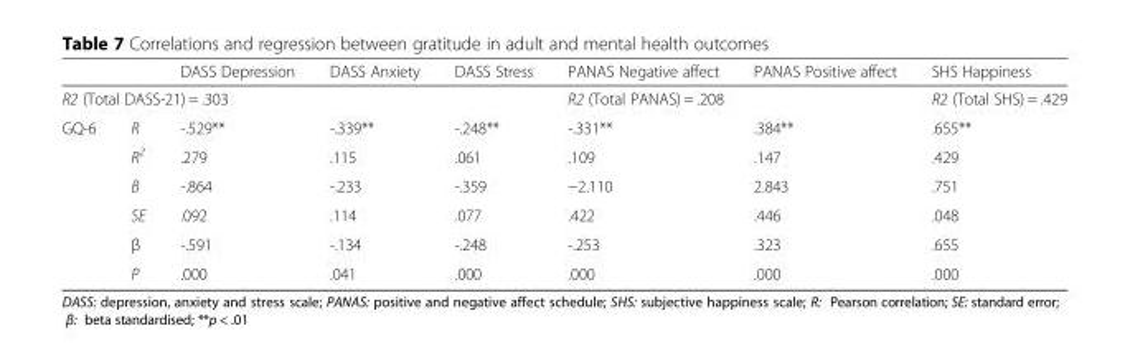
<table><thead><tr><td></td><td></td><td>DASS Depression</td><td>DASS Anxiety</td><td>DASS Stress</td><td>PANAS Negative affect</td><td>PANAS Positive affect</td><td>SHS Happiness</td></tr></thead><tbody><tr><td colspan="5">R2 (Total DASS-21) = .303</td><td colspan="2">R2 (Total PANAS) = .208</td><td>R2 (Total SHS) = .429</td></tr><tr><td rowspan="6">GQ-6</td><td>R</td><td>-.529**</td><td>-.339**</td><td>-.248**</td><td>-.331**</td><td>.384**</td><td>.655**</td></tr><tr><td>R<sup>2</sup></td><td>.279</td><td>.115</td><td>.061</td><td>.109</td><td>.147</td><td>.429</td></tr><tr><td>B</td><td>-.864</td><td>-.233</td><td>-.359</td><td>−2.110</td><td>2.843</td><td>.751</td></tr><tr><td>SE</td><td>.092</td><td>.114</td><td>.077</td><td>.422</td><td>.446</td><td>.048</td></tr><tr><td>β</td><td>-.591</td><td>-.134</td><td>-.248</td><td>-.253</td><td>.323</td><td>.655</td></tr><tr><td>P</td><td>.000</td><td>.041</td><td>.000</td><td>.000</td><td>.000</td><td>.000</td></tr></tbody></table>